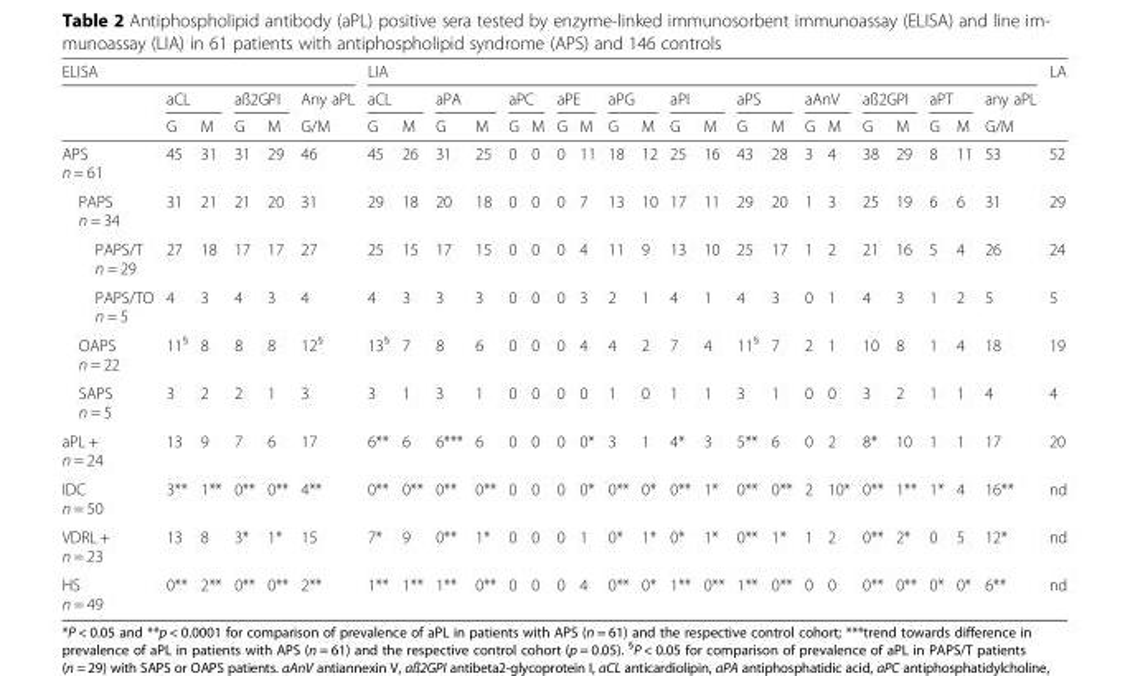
<table><thead><tr><td colspan="6">ELISA</td><td colspan="21">LIA</td><td rowspan="3">LA</td></tr><tr><td rowspan="2"></td><td colspan="2">aCL</td><td colspan="2">aß2GPI</td><td rowspan="2">Any aPL G/M</td><td colspan="2">aCL</td><td colspan="2">aPA</td><td colspan="2">aPC</td><td colspan="2">aPE</td><td colspan="2">aPG</td><td colspan="2">aPI</td><td colspan="2">aPS</td><td colspan="2">aAnV</td><td colspan="2">aß2GPI</td><td colspan="2">aPT</td><td rowspan="2">any aPL G/M</td></tr><tr><td>G</td><td>M</td><td>G</td><td>M</td><td>G</td><td>M</td><td>G</td><td>M</td><td>G</td><td>M</td><td>G</td><td>M</td><td>G</td><td>M</td><td>G</td><td>M</td><td>G</td><td>M</td><td>G</td><td>M</td><td>G</td><td>M</td><td>G</td><td>M</td></tr></thead><tbody><tr><td>APS n = 61</td><td>45</td><td>31</td><td>31</td><td>29</td><td>46</td><td>45</td><td>26</td><td>31</td><td>25</td><td>0</td><td>0</td><td>0</td><td>11</td><td>18</td><td>12</td><td>25</td><td>16</td><td>43</td><td>28</td><td>3</td><td>4</td><td>38</td><td>29</td><td>8</td><td>11</td><td>53</td><td>52</td></tr><tr><td>PAPS n = 34</td><td>31</td><td>21</td><td>21</td><td>20</td><td>31</td><td>29</td><td>18</td><td>20</td><td>18</td><td>0</td><td>0</td><td>0</td><td>7</td><td>13</td><td>10</td><td>17</td><td>11</td><td>29</td><td>20</td><td>1</td><td>3</td><td>25</td><td>19</td><td>6</td><td>6</td><td>31</td><td>29</td></tr><tr><td>PAPS/T n = 29</td><td>27</td><td>18</td><td>17</td><td>17</td><td>27</td><td>25</td><td>15</td><td>17</td><td>15</td><td>0</td><td>0</td><td>0</td><td>4</td><td>11</td><td>9</td><td>13</td><td>10</td><td>25</td><td>17</td><td>1</td><td>2</td><td>21</td><td>16</td><td>5</td><td>4</td><td>26</td><td>24</td></tr><tr><td>PAPS/TO n = 5</td><td>4</td><td>3</td><td>4</td><td>3</td><td>4</td><td>4</td><td>3</td><td>3</td><td>3</td><td>0</td><td>0</td><td>0</td><td>3</td><td>2</td><td>1</td><td>4</td><td>1</td><td>4</td><td>3</td><td>0</td><td>1</td><td>4</td><td>3</td><td>1</td><td>2</td><td>5</td><td>5</td></tr><tr><td>OAPS n = 22</td><td>11<sup>§</sup></td><td>8</td><td>8</td><td>8</td><td>12<sup>§</sup></td><td>13<sup>§</sup></td><td>7</td><td>8</td><td>6</td><td>0</td><td>0</td><td>0</td><td>4</td><td>4</td><td>2</td><td>7</td><td>4</td><td>11<sup>§</sup></td><td>7</td><td>2</td><td>1</td><td>10</td><td>8</td><td>1</td><td>4</td><td>18</td><td>19</td></tr><tr><td>SAPS n = 5</td><td>3</td><td>2</td><td>2</td><td>1</td><td>3</td><td>3</td><td>1</td><td>3</td><td>1</td><td>0</td><td>0</td><td>0</td><td>0</td><td>1</td><td>0</td><td>1</td><td>1</td><td>3</td><td>1</td><td>0</td><td>0</td><td>3</td><td>2</td><td>1</td><td>1</td><td>4</td><td>4</td></tr><tr><td>aPL + n = 24</td><td>13</td><td>9</td><td>7</td><td>6</td><td>17</td><td>6**</td><td>6</td><td>6***</td><td>6</td><td>0</td><td>0</td><td>0</td><td>0*</td><td>3</td><td>1</td><td>4*</td><td>3</td><td>5**</td><td>6</td><td>0</td><td>2</td><td>8*</td><td>10</td><td>1</td><td>1</td><td>17</td><td>20</td></tr><tr><td>IDC n = 50</td><td>3**</td><td>1**</td><td>0**</td><td>0**</td><td>4**</td><td>0**</td><td>0**</td><td>0**</td><td>0**</td><td>0</td><td>0</td><td>0</td><td>0*</td><td>0**</td><td>0*</td><td>0**</td><td>1*</td><td>0**</td><td>0**</td><td>2</td><td>10*</td><td>0**</td><td>1**</td><td>1*</td><td>4</td><td>16**</td><td>nd</td></tr><tr><td>VDRL + n = 23</td><td>13</td><td>8</td><td>3*</td><td>1*</td><td>15</td><td>7*</td><td>9</td><td>0**</td><td>1*</td><td>0</td><td>0</td><td>0</td><td>1</td><td>0*</td><td>1*</td><td>0*</td><td>1*</td><td>0**</td><td>1*</td><td>1</td><td>2</td><td>0**</td><td>2*</td><td>0</td><td>5</td><td>12*</td><td>nd</td></tr><tr><td>HS n = 49</td><td>0**</td><td>2**</td><td>0**</td><td>0**</td><td>2**</td><td>1**</td><td>1**</td><td>1**</td><td>0**</td><td>0</td><td>0</td><td>0</td><td>4</td><td>0**</td><td>0*</td><td>1**</td><td>0**</td><td>1**</td><td>0**</td><td>0</td><td>0</td><td>0**</td><td>0**</td><td>0*</td><td>0*</td><td>6**</td><td>nd</td></tr></tbody></table>